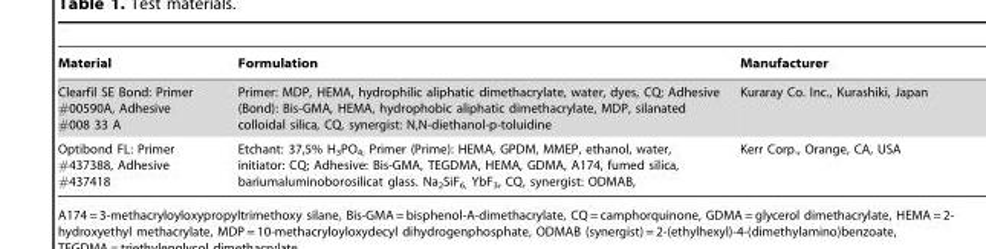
<table><thead><tr><td>Material</td><td>Formulation</td><td>Manufacturer</td></tr></thead><tbody><tr><td>Clearfil SE Bond: Primer #00590A, Adhesive #008 33 A</td><td>Primer: MDP, HEMA, hydrophilic aliphatic dimethacrylate, water, dyes, CQ; Adhesive (Bond): Bis-GMA, HEMA, hydrophobic aliphatic dimethacrylate, MDP, silanated colloidal silica, CQ, synergist: N,N-diethanol-p-toluidine</td><td>Kuraray Co. Inc., Kurashiki, Japan</td></tr><tr><td>Optibond FL: Primer #437388, Adhesive #437418</td><td>Etchant: 37,5% H<sub>3</sub>PO<sub>4;</sub> Primer (Prime): HEMA, GPDM, MMEP, ethanol, water, initiator: CQ; Adhesive: Bis-GMA, TEGDMA, HEMA, GDMA, A174, fumed silica, bariumaluminoborosilicat glass. Na<sub>2</sub>SiF<sub>6,</sub> YbF<sub>3</sub>, CQ, synergist: ODMAB,</td><td>Kerr Corp., Orange, CA, USA</td></tr></tbody></table>